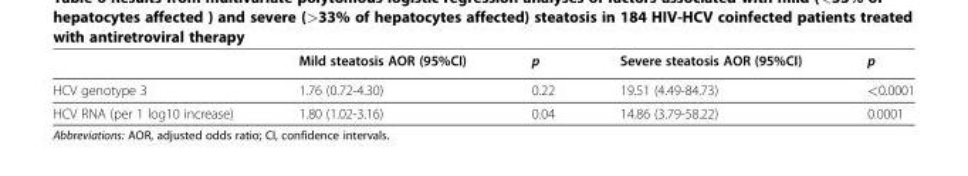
<table><thead><tr><td></td><td>Mild steatosis AOR (95%CI)</td><td>p</td><td>Severe steatosis AOR (95%CI)</td><td>p</td></tr></thead><tbody><tr><td>HCV genotype 3</td><td>1.76 (0.72-4.30)</td><td>0.22</td><td>19.51 (4.49-84.73)</td><td>&lt;0.0001</td></tr><tr><td>HCV RNA (per 1 log10 increase)</td><td>1.80 (1.02-3.16)</td><td>0.04</td><td>14.86 (3.79-58.22)</td><td>0.0001</td></tr></tbody></table>